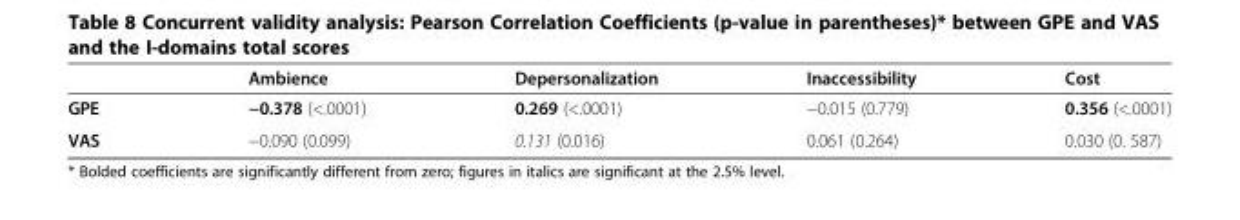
<table><thead><tr><td></td><td>Ambience</td><td>Depersonalization</td><td>Inaccessibility</td><td>Cost</td></tr></thead><tbody><tr><td>GPE</td><td>−0.378 (&lt;.0001)</td><td>0.269 (&lt;.0001)</td><td>−0.015 (0.779)</td><td>0.356 (&lt;.0001)</td></tr><tr><td>VAS</td><td>−0.090 (0.099)</td><td>0.131 (0.016)</td><td>0.061 (0.264)</td><td>0.030 (0. 587)</td></tr></tbody></table>